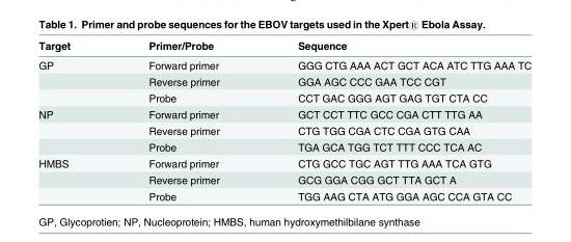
<table><thead><tr><td>Target</td><td>Primer/Probe</td><td>Sequence</td></tr></thead><tbody><tr><td rowspan="3">GP</td><td>Forward primer</td><td>GGG CTG AAA ACT GCT ACA ATC TTG AAA TC</td></tr><tr><td>Reverse primer</td><td>GGA AGC CCC GAA TCC CGT</td></tr><tr><td>Probe</td><td>CCT GAC GGG AGT GAG TGT CTA CC</td></tr><tr><td rowspan="3">NP</td><td>Forward primer</td><td>GCT CCT TTC GCC CGA CTT TTG AA</td></tr><tr><td>Reverse primer</td><td>CTG TGG CGA CTC CGA GTG CAA</td></tr><tr><td>Probe</td><td>TGA GCA TGG TCT TTT CCC TCA AC</td></tr><tr><td rowspan="3">HMBS</td><td>Forward primer</td><td>CTG GCC TGC AGT TTG AAA TCA GTG</td></tr><tr><td>Reverse primer</td><td>GCG GGA CGG GCT TTA GCT A</td></tr><tr><td>Probe</td><td>TGG AAG CTA ATG GGA AGC CCA GTA CC</td></tr></tbody></table>